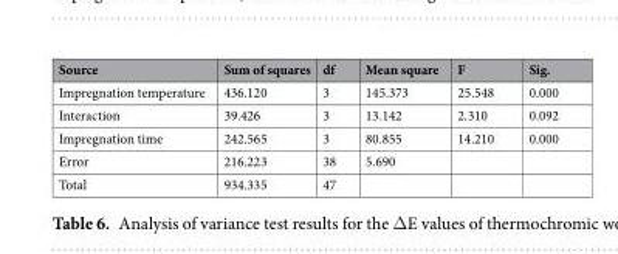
<table><thead><tr><td>Source</td><td>Sum of squares</td><td>df</td><td>Mean square</td><td>F</td><td>Sig.</td></tr></thead><tbody><tr><td>Impregnation temperature</td><td>436.120</td><td>3</td><td>145.373</td><td>25.548</td><td>0.000</td></tr><tr><td>Interaction</td><td>39.426</td><td>3</td><td>13.142</td><td>2.310</td><td>0.092</td></tr><tr><td>Impregnation time</td><td>242.565</td><td>3</td><td>80.855</td><td>14.210</td><td>0.000</td></tr><tr><td>Error</td><td>216.223</td><td>38</td><td>5.690</td><td></td><td></td></tr><tr><td>Total</td><td>934.335</td><td>47</td><td></td><td></td><td></td></tr></tbody></table>